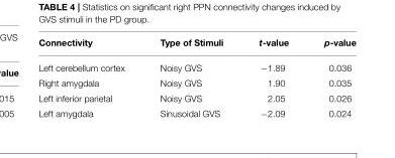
<table><thead><tr><td>Connectivity</td><td>Type of Stimuli</td><td>t-value</td><td>p-value</td></tr></thead><tbody><tr><td>Left cerebellum cortex</td><td>Noisy GVS</td><td>−1.89</td><td>0.036</td></tr><tr><td>Right amygdala</td><td>Noisy GVS</td><td>1.90</td><td>0.035</td></tr><tr><td>Left inferior parietal</td><td>Noisy GVS</td><td>2.05</td><td>0.026</td></tr><tr><td>Left amygdala</td><td>Sinusoidal GVS</td><td>−2.09</td><td>0.024</td></tr></tbody></table>